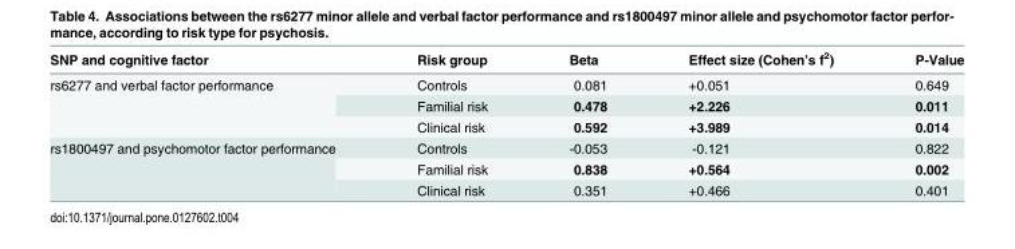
<table><thead><tr><td>SNP and cognitive factor</td><td>Risk group</td><td>Beta</td><td>Effect size (Cohen’s f<sup>2</sup>)</td><td>P-Value</td></tr></thead><tbody><tr><td rowspan="3">rs6277 and verbal factor performance</td><td>Controls</td><td>0.081</td><td>+0.051</td><td>0.649</td></tr><tr><td>Familial risk</td><td>0.478</td><td>+2.226</td><td>0.011</td></tr><tr><td>Clinical risk</td><td>0.592</td><td>+3.989</td><td>0.014</td></tr><tr><td rowspan="3">rs1800497 and psychomotor factor performance</td><td>Controls</td><td>-0.053</td><td>-0.121</td><td>0.822</td></tr><tr><td>Familial risk</td><td>0.838</td><td>+0.564</td><td>0.002</td></tr><tr><td>Clinical risk</td><td>0.351</td><td>+0.466</td><td>0.401</td></tr></tbody></table>